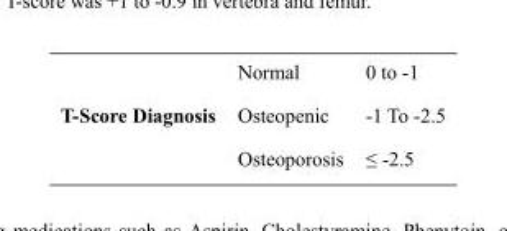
<table><thead><tr><td rowspan="3">T-Score Diagnosis</td><td rowspan="3">Normal Osteopenic Osteoporosis</td><td rowspan="3">0 to -1 -1 To -2.5 ≤ -2.5</td></tr><tr></tr><tr></tr></thead><tbody></tbody></table>